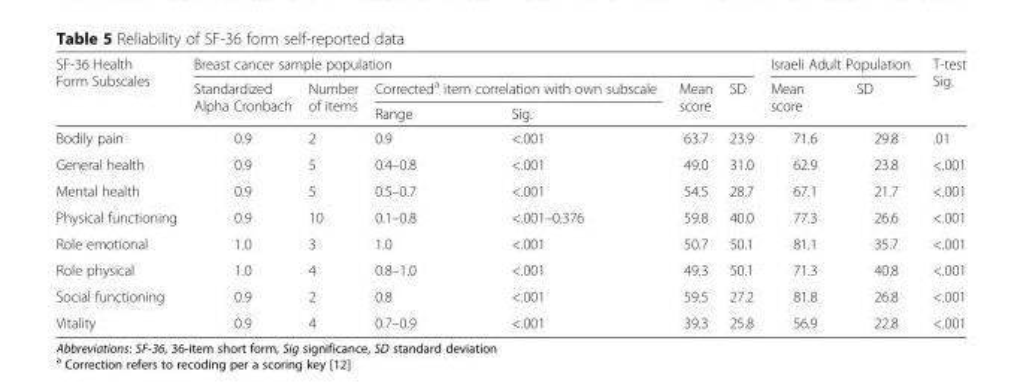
<table><thead><tr><td rowspan="3">SF-36 Health Form Subscales</td><td colspan="6">Breast cancer sample population</td><td colspan="2">Israeli Adult Population</td><td rowspan="3">T-test Sig.</td></tr><tr><td rowspan="2">Standardized Alpha Cronbach</td><td rowspan="2">Number of items</td><td colspan="2">Corrected<sup>a</sup> item correlation with own subscale</td><td rowspan="2">Mean score</td><td rowspan="2">SD</td><td rowspan="2">Mean score</td><td rowspan="2">SD</td></tr><tr><td>Range</td><td>Sig.</td></tr></thead><tbody><tr><td>Bodily pain</td><td>0.9</td><td>2</td><td>0.9</td><td>&lt;.001</td><td>63.7</td><td>23.9</td><td>71.6</td><td>29.8</td><td>.01</td></tr><tr><td>General health</td><td>0.9</td><td>5</td><td>0.4–0.8</td><td>&lt;.001</td><td>49.0</td><td>31.0</td><td>62.9</td><td>23.8</td><td>&lt;.001</td></tr><tr><td>Mental health</td><td>0.9</td><td>5</td><td>0.5–0.7</td><td>&lt;.001</td><td>54.5</td><td>28.7</td><td>67.1</td><td>21.7</td><td>&lt;.001</td></tr><tr><td>Physical functioning</td><td>0.9</td><td>10</td><td>0.1–0.8</td><td>&lt;.001–0.376</td><td>59.8</td><td>40.0</td><td>77.3</td><td>26.6</td><td>&lt;.001</td></tr><tr><td>Role emotional</td><td>1.0</td><td>3</td><td>1.0</td><td>&lt;.001</td><td>50.7</td><td>50.1</td><td>81.1</td><td>35.7</td><td>&lt;.001</td></tr><tr><td>Role physical</td><td>1.0</td><td>4</td><td>0.8–1.0</td><td>&lt;.001</td><td>49.3</td><td>50.1</td><td>71.3</td><td>40.8</td><td>&lt;.001</td></tr><tr><td>Social functioning</td><td>0.9</td><td>2</td><td>0.8</td><td>&lt;.001</td><td>59.5</td><td>27.2</td><td>81.8</td><td>26.8</td><td>&lt;.001</td></tr><tr><td>Vitality</td><td>0.9</td><td>4</td><td>0.7–0.9</td><td>&lt;.001</td><td>39.3</td><td>25.8</td><td>56.9</td><td>22.8</td><td>&lt;.001</td></tr></tbody></table>